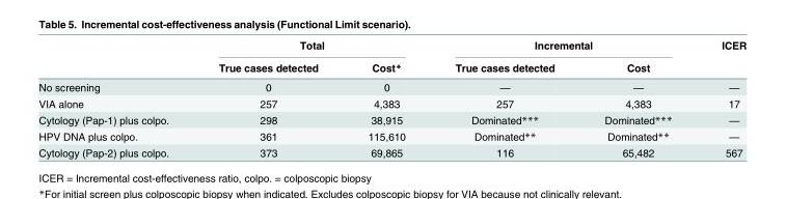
<table><thead><tr><td rowspan="2"></td><td colspan="2">Total</td><td colspan="2">Incremental</td><td rowspan="2">ICER</td></tr><tr><td>True cases detected</td><td>Cost*</td><td>True cases detected</td><td>Cost</td></tr></thead><tbody><tr><td>No screening</td><td>0</td><td>0</td><td>—</td><td>—</td><td>—</td></tr><tr><td>VIA alone</td><td>257</td><td>4,383</td><td>257</td><td>4,383</td><td>17</td></tr><tr><td>Cytology (Pap-1) plus colpo.</td><td>298</td><td>38,915</td><td>Dominated***</td><td>Dominated***</td><td>—</td></tr><tr><td>HPV DNA plus colpo.</td><td>361</td><td>115,610</td><td>Dominated**</td><td>Dominated**</td><td>—</td></tr><tr><td>Cytology (Pap-2) plus colpo.</td><td>373</td><td>69,865</td><td>116</td><td>65,482</td><td>567</td></tr></tbody></table>